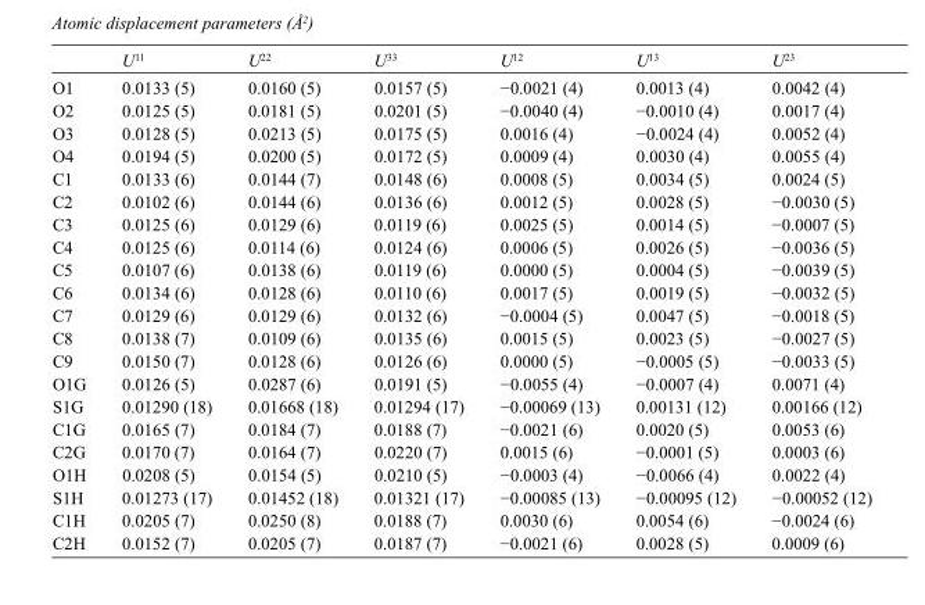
<table><thead><tr><td></td><td>U<sup>11</sup></td><td>U<sup>22</sup></td><td>U<sup>33</sup></td><td>U<sup>12</sup></td><td>U<sup>13</sup></td><td>U<sup>23</sup></td></tr></thead><tbody><tr><td>O1</td><td>0.0133 (5)</td><td>0.0160 (5)</td><td>0.0157 (5)</td><td>−0.0021 (4)</td><td>0.0013 (4)</td><td>0.0042 (4)</td></tr><tr><td>O2</td><td>0.0125 (5)</td><td>0.0181 (5)</td><td>0.0201 (5)</td><td>−0.0040 (4)</td><td>−0.0010 (4)</td><td>0.0017 (4)</td></tr><tr><td>O3</td><td>0.0128 (5)</td><td>0.0213 (5)</td><td>0.0175 (5)</td><td>0.0016 (4)</td><td>−0.0024 (4)</td><td>0.0052 (4)</td></tr><tr><td>O4</td><td>0.0194 (5)</td><td>0.0200 (5)</td><td>0.0172 (5)</td><td>0.0009 (4)</td><td>0.0030 (4)</td><td>0.0055 (4)</td></tr><tr><td>C1</td><td>0.0133 (6)</td><td>0.0144 (7)</td><td>0.0148 (6)</td><td>0.0008 (5)</td><td>0.0034 (5)</td><td>0.0024 (5)</td></tr><tr><td>C2</td><td>0.0102 (6)</td><td>0.0144 (6)</td><td>0.0136 (6)</td><td>0.0012 (5)</td><td>0.0028 (5)</td><td>−0.0030 (5)</td></tr><tr><td>C3</td><td>0.0125 (6)</td><td>0.0129 (6)</td><td>0.0119 (6)</td><td>0.0025 (5)</td><td>0.0014 (5)</td><td>−0.0007 (5)</td></tr><tr><td>C4</td><td>0.0125 (6)</td><td>0.0114 (6)</td><td>0.0124 (6)</td><td>0.0006 (5)</td><td>0.0026 (5)</td><td>−0.0036 (5)</td></tr><tr><td>C5</td><td>0.0107 (6)</td><td>0.0138 (6)</td><td>0.0119 (6)</td><td>0.0000 (5)</td><td>0.0004 (5)</td><td>−0.0039 (5)</td></tr><tr><td>C6</td><td>0.0134 (6)</td><td>0.0128 (6)</td><td>0.0110 (6)</td><td>0.0017 (5)</td><td>0.0019 (5)</td><td>−0.0032 (5)</td></tr><tr><td>C7</td><td>0.0129 (6)</td><td>0.0129 (6)</td><td>0.0132 (6)</td><td>−0.0004 (5)</td><td>0.0047 (5)</td><td>−0.0018 (5)</td></tr><tr><td>C8</td><td>0.0138 (7)</td><td>0.0109 (6)</td><td>0.0135 (6)</td><td>0.0015 (5)</td><td>0.0023 (5)</td><td>−0.0027 (5)</td></tr><tr><td>C9</td><td>0.0150 (7)</td><td>0.0128 (6)</td><td>0.0126 (6)</td><td>0.0000 (5)</td><td>−0.0005 (5)</td><td>−0.0033 (5)</td></tr><tr><td>O1G</td><td>0.0126 (5)</td><td>0.0287 (6)</td><td>0.0191 (5)</td><td>−0.0055 (4)</td><td>−0.0007 (4)</td><td>0.0071 (4)</td></tr><tr><td>S1G</td><td>0.01290 (18)</td><td>0.01668 (18)</td><td>0.01294 (17)</td><td>−0.00069 (13)</td><td>0.00131 (12)</td><td>0.00166 (12)</td></tr><tr><td>C1G</td><td>0.0165 (7)</td><td>0.0184 (7)</td><td>0.0188 (7)</td><td>−0.0021 (6)</td><td>0.0020 (5)</td><td>0.0053 (6)</td></tr><tr><td>C2G</td><td>0.0170 (7)</td><td>0.0164 (7)</td><td>0.0220 (7)</td><td>0.0015 (6)</td><td>−0.0001 (5)</td><td>0.0003 (6)</td></tr><tr><td>O1H</td><td>0.0208 (5)</td><td>0.0154 (5)</td><td>0.0210 (5)</td><td>−0.0003 (4)</td><td>−0.0066 (4)</td><td>0.0022 (4)</td></tr><tr><td>S1H</td><td>0.01273 (17)</td><td>0.01452 (18)</td><td>0.01321 (17)</td><td>−0.00085 (13)</td><td>−0.00095 (12)</td><td>−0.00052 (12)</td></tr><tr><td>C1H</td><td>0.0205 (7)</td><td>0.0250 (8)</td><td>0.0188 (7)</td><td>0.0030 (6)</td><td>0.0054 (6)</td><td>−0.0024 (6)</td></tr><tr><td>C2H</td><td>0.0152 (7)</td><td>0.0205 (7)</td><td>0.0187 (7)</td><td>−0.0021 (6)</td><td>0.0028 (5)</td><td>0.0009 (6)</td></tr></tbody></table>